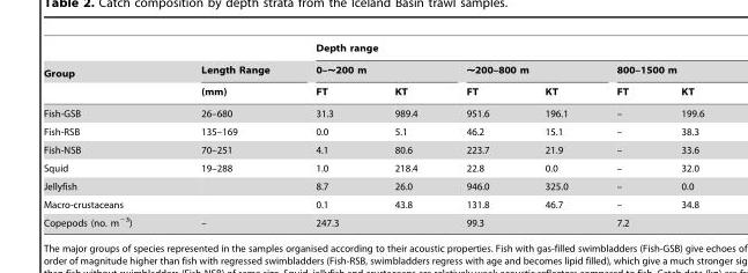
<table><thead><tr><td rowspan="3">Group</td><td rowspan="3">Length Range (mm)</td><td colspan="6">Depth range</td></tr><tr><td colspan="2">0–∼200 m</td><td colspan="2">∼200–800 m</td><td colspan="2">800–1500 m</td></tr><tr><td>FT</td><td>KT</td><td>FT</td><td>KT</td><td>FT</td><td>KT</td></tr></thead><tbody><tr><td>Fish-GSB</td><td>26–680</td><td>31.3</td><td>989.4</td><td>951.6</td><td>196.1</td><td>–</td><td>199.6</td></tr><tr><td>Fish-RSB</td><td>135–169</td><td>0.0</td><td>5.1</td><td>46.2</td><td>15.1</td><td>–</td><td>38.3</td></tr><tr><td>Fish-NSB</td><td>70–251</td><td>4.1</td><td>80.6</td><td>223.7</td><td>21.9</td><td>–</td><td>33.6</td></tr><tr><td>Squid</td><td>19–288</td><td>1.0</td><td>218.4</td><td>22.8</td><td>0.0</td><td>–</td><td>32.0</td></tr><tr><td>Jellyfish</td><td></td><td>8.7</td><td>26.0</td><td>946.0</td><td>325.0</td><td>–</td><td>0.0</td></tr><tr><td>Macro-crustaceans</td><td></td><td>0.1</td><td>43.8</td><td>131.8</td><td>46.7</td><td>–</td><td>34.8</td></tr><tr><td>Copepods (no. m<sup>−3</sup>)</td><td>–</td><td colspan="2">247.3</td><td colspan="2">99.3</td><td colspan="2">7.2</td></tr></tbody></table>